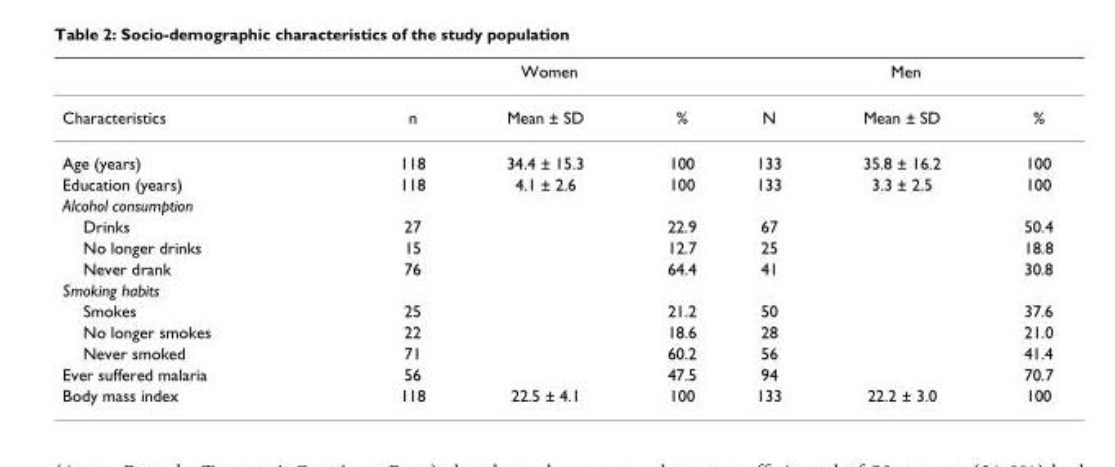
<table><thead><tr><td rowspan="2">Characteristics</td><td colspan="3">Women</td><td colspan="3">Men</td></tr><tr><td>n</td><td>Mean ± SD</td><td>%</td><td>N</td><td>Mean ± SD</td><td>%</td></tr></thead><tbody><tr><td>Age (years)</td><td>118</td><td>34.4 ± 15.3</td><td>100</td><td>133</td><td>35.8 ± 16.2</td><td>100</td></tr><tr><td>Education (years)</td><td>118</td><td>4.1 ± 2.6</td><td>100</td><td>133</td><td>3.3 ± 2.5</td><td>100</td></tr><tr><td colspan="7">Alcohol consumption</td></tr><tr><td>Drinks</td><td>27</td><td></td><td>22.9</td><td>67</td><td></td><td>50.4</td></tr><tr><td>No longer drinks</td><td>15</td><td></td><td>12.7</td><td>25</td><td></td><td>18.8</td></tr><tr><td>Never drank</td><td>76</td><td></td><td>64.4</td><td>41</td><td></td><td>30.8</td></tr><tr><td colspan="7">Smoking habits</td></tr><tr><td>Smokes</td><td>25</td><td></td><td>21.2</td><td>50</td><td></td><td>37.6</td></tr><tr><td>No longer smokes</td><td>22</td><td></td><td>18.6</td><td>28</td><td></td><td>21.0</td></tr><tr><td>Never smoked</td><td>71</td><td></td><td>60.2</td><td>56</td><td></td><td>41.4</td></tr><tr><td>Ever suffered malaria</td><td>56</td><td></td><td>47.5</td><td>94</td><td></td><td>70.7</td></tr><tr><td>Body mass index</td><td>118</td><td>22.5 ± 4.1</td><td>100</td><td>133</td><td>22.2 ± 3.0</td><td>100</td></tr></tbody></table>